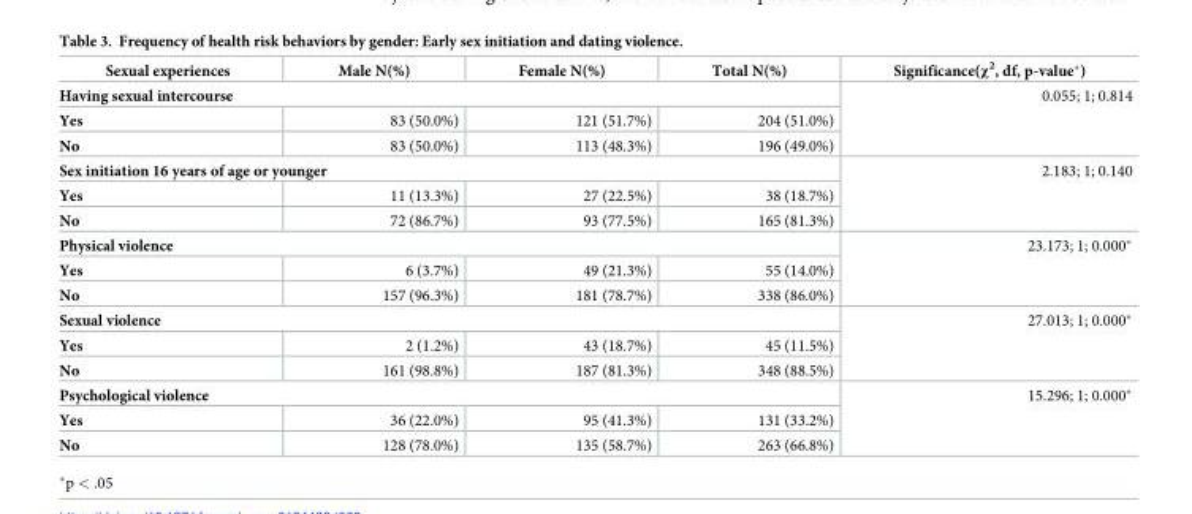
<table><thead><tr><td>Sexual experiences</td><td>Male N(%)</td><td>Female N(%)</td><td>Total N(%)</td><td>Significance(χ<sup>2</sup>, df, p-value*)</td></tr></thead><tbody><tr><td colspan="4">Having sexual intercourse</td><td rowspan="3">0.055; 1; 0.814</td></tr><tr><td>Yes</td><td>83 (50.0%)</td><td>121 (51.7%)</td><td>204 (51.0%)</td></tr><tr><td>No</td><td>83 (50.0%)</td><td>113 (48.3%)</td><td>196 (49.0%)</td></tr><tr><td colspan="4">Sex initiation 16 years of age or younger</td><td rowspan="3">2.183; 1; 0.140</td></tr><tr><td>Yes</td><td>11 (13.3%)</td><td>27 (22.5%)</td><td>38 (18.7%)</td></tr><tr><td>No</td><td>72 (86.7%)</td><td>93 (77.5%)</td><td>165 (81.3%)</td></tr><tr><td colspan="4">Physical violence</td><td rowspan="3">23.173; 1; 0.000*</td></tr><tr><td>Yes</td><td>6 (3.7%)</td><td>49 (21.3%)</td><td>55 (14.0%)</td></tr><tr><td>No</td><td>157 (96.3%)</td><td>181 (78.7%)</td><td>338 (86.0%)</td></tr><tr><td colspan="4">Sexual violence</td><td rowspan="3">27.013; 1; 0.000*</td></tr><tr><td>Yes</td><td>2 (1.2%)</td><td>43 (18.7%)</td><td>45 (11.5%)</td></tr><tr><td>No</td><td>161 (98.8%)</td><td>187 (81.3%)</td><td>348 (88.5%)</td></tr><tr><td colspan="4">Psychological violence</td><td rowspan="3">15.296; 1; 0.000*</td></tr><tr><td>Yes</td><td>36 (22.0%)</td><td>95 (41.3%)</td><td>131 (33.2%)</td></tr><tr><td>No</td><td>128 (78.0%)</td><td>135 (58.7%)</td><td>263 (66.8%)</td></tr></tbody></table>